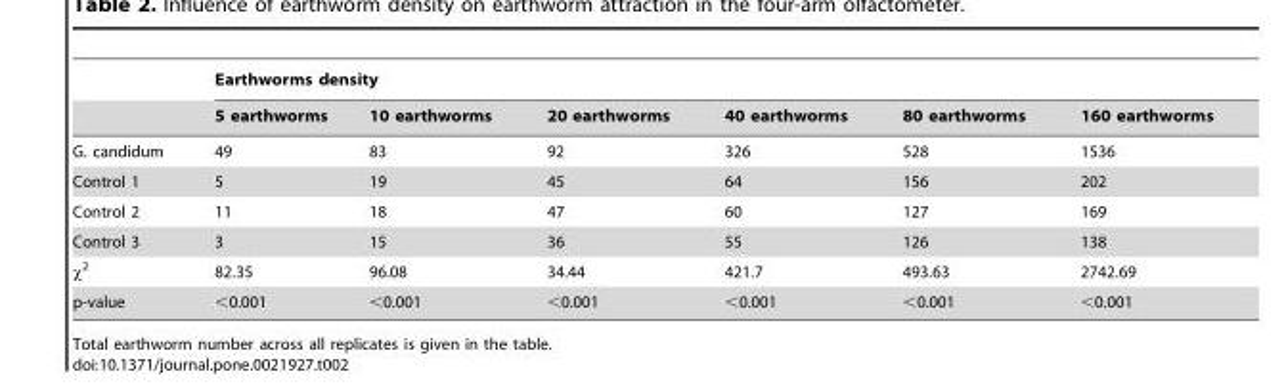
<table><thead><tr><td rowspan="2"></td><td colspan="6">Earthworms density</td></tr><tr><td>5 earthworms</td><td>10 earthworms</td><td>20 earthworms</td><td>40 earthworms</td><td>80 earthworms</td><td>160 earthworms</td></tr></thead><tbody><tr><td>G. candidum</td><td>49</td><td>83</td><td>92</td><td>326</td><td>528</td><td>1536</td></tr><tr><td>Control 1</td><td>5</td><td>19</td><td>45</td><td>64</td><td>156</td><td>202</td></tr><tr><td>Control 2</td><td>11</td><td>18</td><td>47</td><td>60</td><td>127</td><td>169</td></tr><tr><td>Control 3</td><td>3</td><td>15</td><td>36</td><td>55</td><td>126</td><td>138</td></tr><tr><td>χ<sup>2</sup></td><td>82.35</td><td>96.08</td><td>34.44</td><td>421.7</td><td>493.63</td><td>2742.69</td></tr><tr><td>p-value</td><td>&lt;0.001</td><td>&lt;0.001</td><td>&lt;0.001</td><td>&lt;0.001</td><td>&lt;0.001</td><td>&lt;0.001</td></tr></tbody></table>